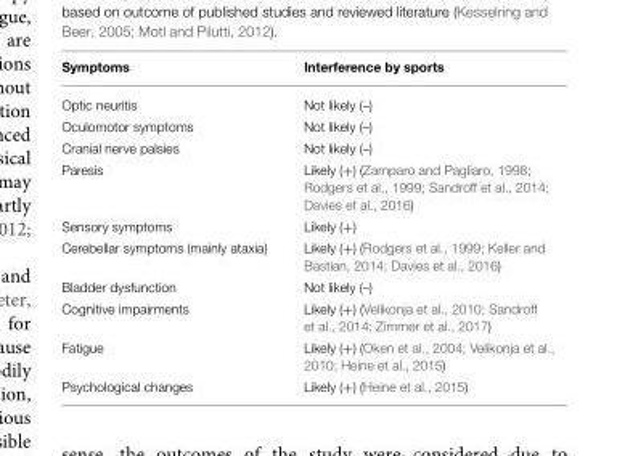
<table><thead><tr><td>Symptoms</td><td>Interference by sports</td></tr></thead><tbody><tr><td>Optic neuritis</td><td>Not likely (–)</td></tr><tr><td>Oculomotor symptoms</td><td>Not likely (–)</td></tr><tr><td>Cranial nerve palsies</td><td>Not likely (–)</td></tr><tr><td>Paresis</td><td>Likely (+) (Zamparo and Pagliaro, 1998; Rodgers et al., 1999; Sandroff et al., 2014; Davies et al., 2016)</td></tr><tr><td>Sensory symptoms</td><td>Likely (+)</td></tr><tr><td>Cerebellar symptoms (mainly ataxia)</td><td>Likely (+) (Rodgers et al., 1999; Keller and Bastian, 2014; Davies et al., 2016)</td></tr><tr><td>Bladder dysfunction</td><td>Not likely (–)</td></tr><tr><td>Cognitive impairments</td><td>Likely (+) (Velikonja et al., 2010; Sandroff et al., 2014; Zimmer et al., 2017)</td></tr><tr><td>Fatigue</td><td>Likely (+) (Oken et al., 2004; Velikonja et al., 2010; Heine et al., 2015)</td></tr><tr><td>Psychological changes</td><td>Likely (+) (Heine et al., 2015)</td></tr></tbody></table>